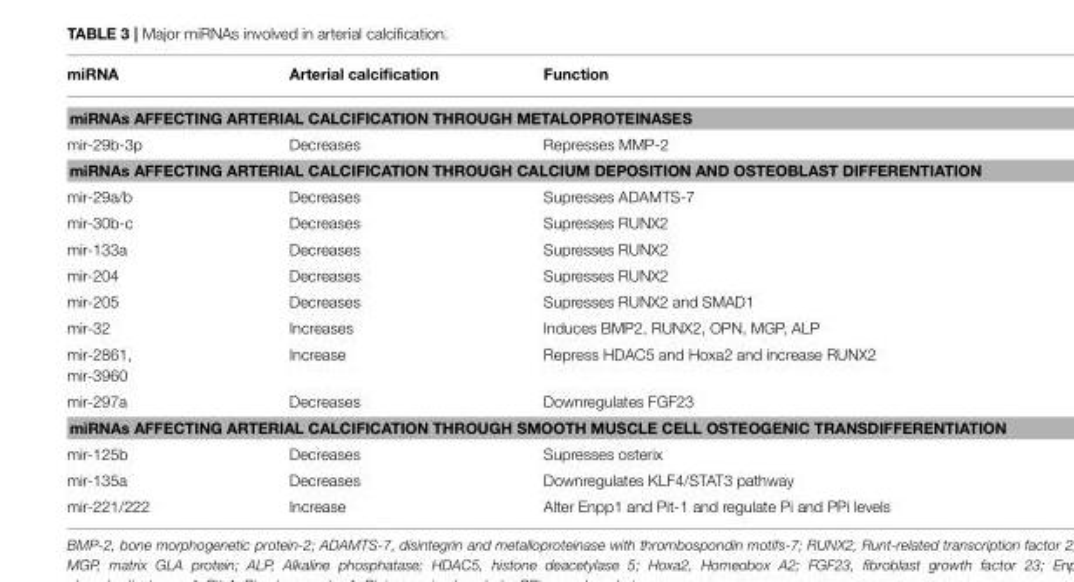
<table><thead><tr><td>miRNA</td><td>Arterial calcification</td><td>Function</td></tr></thead><tbody><tr><td colspan="3">miRNAs AFFECTING ARTERIAL CALCIFICATION THROUGH METALOPROTEINASES</td></tr><tr><td>mir-29b-3p</td><td>Decreases</td><td>Represses MMP-2</td></tr><tr><td colspan="3">miRNAs AFFECTING ARTERIAL CALCIFICATION THROUGH CALCIUM DEPOSITION AND OSTEOBLAST DIFFERENTIATION</td></tr><tr><td>mir-29a/b</td><td>Decreases</td><td>Supresses ADAMTS-7</td></tr><tr><td>mir-30b-c</td><td>Decreases</td><td>Supresses RUNX2</td></tr><tr><td>mir-133a</td><td>Decreases</td><td>Supresses RUNX2</td></tr><tr><td>mir-204</td><td>Decreases</td><td>Supresses RUNX2</td></tr><tr><td>mir-205</td><td>Decreases</td><td>Supresses RUNX2 and SMAD1</td></tr><tr><td>mir-32</td><td>Increases</td><td>Induces BMP2, RUNX2, OPN, MGP, ALP</td></tr><tr><td>mir-2861, mir-3960</td><td>Increase</td><td>Repress HDAC5 and Hoxa2 and increase RUNX2</td></tr><tr><td>mir-297a</td><td>Decreases</td><td>Downregulates FGF23</td></tr><tr><td colspan="3">miRNAs AFFECTING ARTERIAL CALCIFICATION THROUGH SMOOTH MUSCLE CELL OSTEOGENIC TRANSDIFFERENTIATION</td></tr><tr><td>mir-125b</td><td>Decreases</td><td>Supresses osterix</td></tr><tr><td>mir-135a</td><td>Decreases</td><td>Downregulates KLF4/STAT3 pathway</td></tr><tr><td>mir-221/222</td><td>Increase</td><td>Alter Enpp1 and Pit-1 and regulate Pi and PPi levels</td></tr></tbody></table>